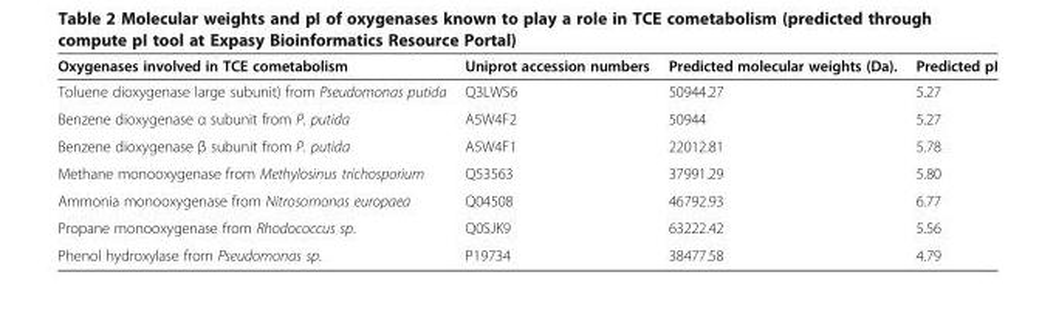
<table><thead><tr><td>Oxygenases involved in TCE cometabolism</td><td>Uniprot accession numbers</td><td>Predicted molecular weights (Da).</td><td>Predicted pI</td></tr></thead><tbody><tr><td>Toluene dioxygenase large subunit) from Pseudomonas putida</td><td>Q3LWS6</td><td>50944.27</td><td>5.27</td></tr><tr><td>Benzene dioxygenase α subunit from P. putida</td><td>A5W4F2</td><td>50944</td><td>5.27</td></tr><tr><td>Benzene dioxygenase β subunit from P. putida</td><td>A5W4F1</td><td>22012.81</td><td>5.78</td></tr><tr><td>Methane monooxygenase from Methylosinus trichosporium</td><td>Q53563</td><td>37991.29</td><td>5.80</td></tr><tr><td>Ammonia monooxygenase from Nitrosomonas europaea</td><td>Q04508</td><td>46792.93</td><td>6.77</td></tr><tr><td>Propane monooxygenase from Rhodococcus sp.</td><td>Q0SJK9</td><td>63222.42</td><td>5.56</td></tr><tr><td>Phenol hydroxylase from Pseudomonas sp.</td><td>P19734</td><td>38477.58</td><td>4.79</td></tr></tbody></table>